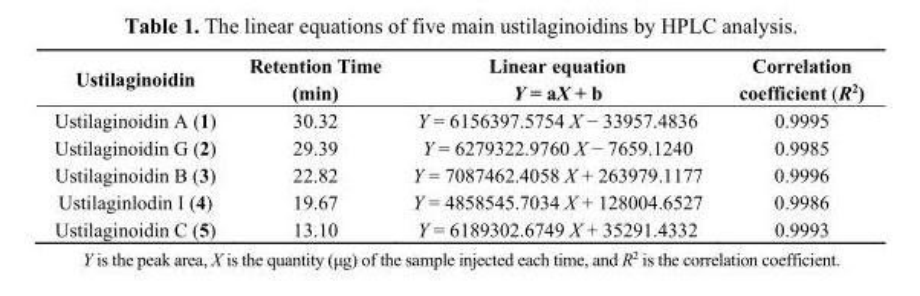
<table><thead><tr><td>Ustilaginoidin</td><td>Retention Time (min)</td><td>Linear equation Y = aX + b</td><td>Correlation coefficient (R<sup>2</sup>)</td></tr></thead><tbody><tr><td>Ustilaginoidin A (1)</td><td>30.32</td><td>Y = 6156397.5754 X − 33957.4836</td><td>0.9995</td></tr><tr><td>Ustilaginoidin G (2)</td><td>29.39</td><td>Y = 6279322.9760 X − 7659.1240</td><td>0.9985</td></tr><tr><td>Ustilaginoidin B (3)</td><td>22.82</td><td>Y = 7087462.4058 X + 263979.1177</td><td>0.9996</td></tr><tr><td>Ustilaginlodin I (4)</td><td>19.67</td><td>Y = 4858545.7034 X + 128004.6527</td><td>0.9986</td></tr><tr><td>Ustilaginoidin C (5)</td><td>13.10</td><td>Y = 6189302.6749 X + 35291.4332</td><td>0.9993</td></tr></tbody></table>